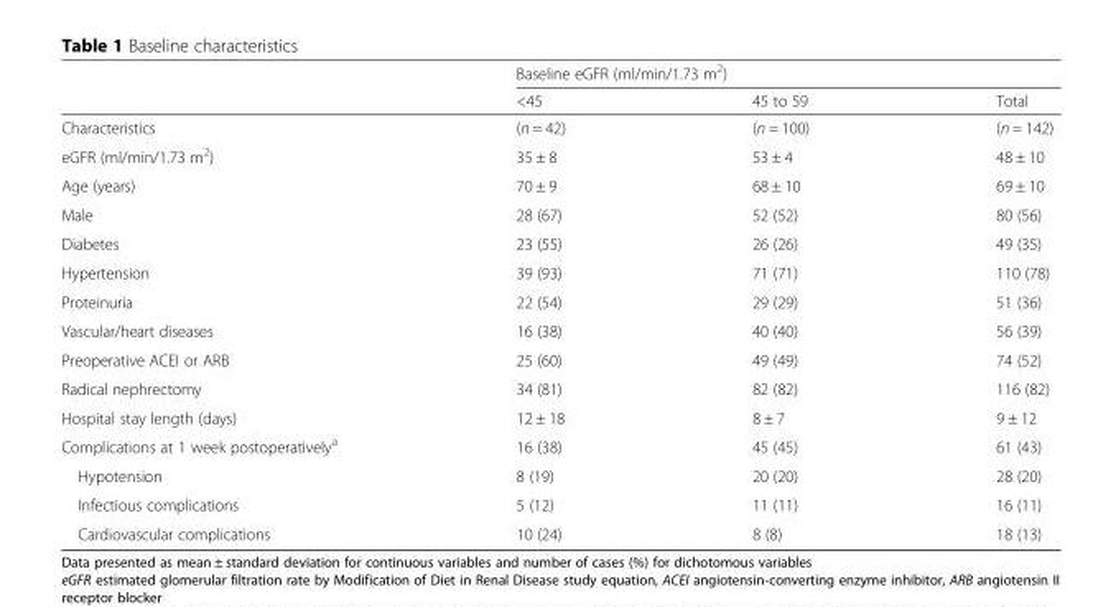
<table><thead><tr><td rowspan="2"></td><td colspan="3">Baseline eGFR (ml/min/1.73 m<sup>2</sup>)</td></tr><tr><td>&lt;45</td><td>45 to 59</td><td>Total</td></tr></thead><tbody><tr><td>Characteristics</td><td>(n = 42)</td><td>(n = 100)</td><td>(n = 142)</td></tr><tr><td>eGFR (ml/min/1.73 m<sup>2</sup>)</td><td>35 ± 8</td><td>53 ± 4</td><td>48 ± 10</td></tr><tr><td>Age (years)</td><td>70 ± 9</td><td>68 ± 10</td><td>69 ± 10</td></tr><tr><td>Male</td><td>28 (67)</td><td>52 (52)</td><td>80 (56)</td></tr><tr><td>Diabetes</td><td>23 (55)</td><td>26 (26)</td><td>49 (35)</td></tr><tr><td>Hypertension</td><td>39 (93)</td><td>71 (71)</td><td>110 (78)</td></tr><tr><td>Proteinuria</td><td>22 (54)</td><td>29 (29)</td><td>51 (36)</td></tr><tr><td>Vascular/heart diseases</td><td>16 (38)</td><td>40 (40)</td><td>56 (39)</td></tr><tr><td>Preoperative ACEI or ARB</td><td>25 (60)</td><td>49 (49)</td><td>74 (52)</td></tr><tr><td>Radical nephrectomy</td><td>34 (81)</td><td>82 (82)</td><td>116 (82)</td></tr><tr><td>Hospital stay length (days)</td><td>12 ± 18</td><td>8 ± 7</td><td>9 ± 12</td></tr><tr><td>Complications at 1 week postoperatively<sup>a</sup></td><td>16 (38)</td><td>45 (45)</td><td>61 (43)</td></tr><tr><td>Hypotension</td><td>8 (19)</td><td>20 (20)</td><td>28 (20)</td></tr><tr><td>Infectious complications</td><td>5 (12)</td><td>11 (11)</td><td>16 (11)</td></tr><tr><td>Cardiovascular complications</td><td>10 (24)</td><td>8 (8)</td><td>18 (13)</td></tr></tbody></table>